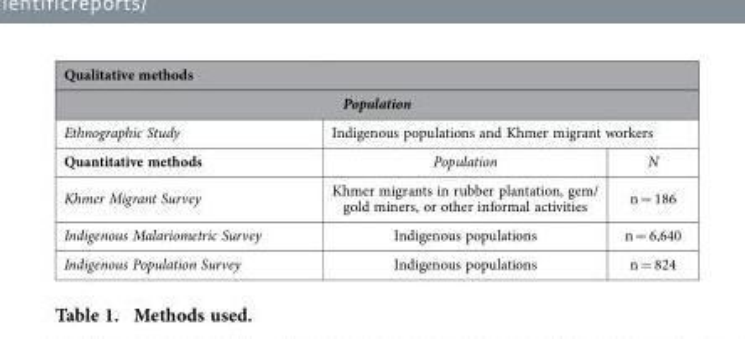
<table><thead><tr><td rowspan="2" colspan="3">Qualitative methods Population</td></tr><tr></tr><tr><td rowspan="2">Ethnographic Study Quantitative methods</td><td colspan="2">Indigenous populations and Khmer migrant workers</td></tr><tr><td>Population</td><td>N</td></tr></thead><tbody><tr><td>Khmer Migrant Survey</td><td>Khmer migrants in rubber plantation, gem/ gold miners, or other informal activities</td><td>n = 186</td></tr><tr><td>Indigenous Malariometric Survey</td><td>Indigenous populations</td><td>n = 6,640</td></tr><tr><td>Indigenous Population Survey</td><td>Indigenous populations</td><td>n = 824</td></tr></tbody></table>